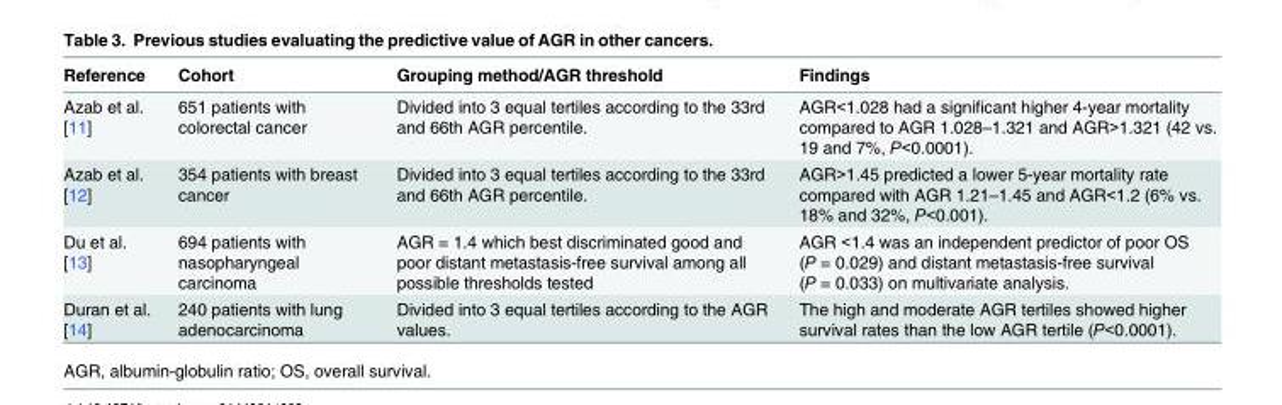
<table><thead><tr><td>Reference</td><td>Cohort</td><td>Grouping method/AGR threshold</td><td>Findings</td></tr></thead><tbody><tr><td>Azab et al. [11]</td><td>651 patients with colorectal cancer</td><td>Divided into 3 equal tertiles according to the 33rd and 66th AGR percentile.</td><td>AGR&lt;1.028 had a significant higher 4-year mortality compared to AGR 1.028–1.321 and AGR&gt;1.321 (42 vs. 19 and 7%, P&lt;0.0001).</td></tr><tr><td>Azab et al. [12]</td><td>354 patients with breast cancer</td><td>Divided into 3 equal tertiles according to the 33rd and 66th AGR percentile.</td><td>AGR&gt;1.45 predicted a lower 5-year mortality rate compared with AGR 1.21–1.45 and AGR&lt;1.2 (6% vs. 18% and 32%, P&lt;0.001).</td></tr><tr><td>Du et al. [13]</td><td>694 patients with nasopharyngeal carcinoma</td><td>AGR = 1.4 which best discriminated good and poor distant metastasis-free survival among all possible thresholds tested</td><td>AGR &lt;1.4 was an independent predictor of poor OS (P = 0.029) and distant metastasis-free survival (P = 0.033) on multivariate analysis.</td></tr><tr><td>Duran et al. [14]</td><td>240 patients with lung adenocarcinoma</td><td>Divided into 3 equal tertiles according to the AGR values.</td><td>The high and moderate AGR tertiles showed higher survival rates than the low AGR tertile (P&lt;0.0001).</td></tr></tbody></table>